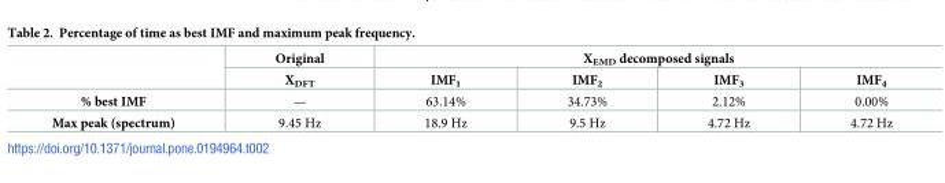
<table><thead><tr><td rowspan="2"></td><td rowspan="2">Original X<sub>DFT</sub></td><td colspan="4">X<sub>EMD</sub> decomposed signals</td></tr><tr><td>IMF<sub>1</sub></td><td>IMF<sub>2</sub></td><td>IMF<sub>3</sub></td><td>IMF<sub>4</sub></td></tr></thead><tbody><tr><td>% best IMF</td><td>—</td><td>63.14%</td><td>34.73%</td><td>2.12%</td><td>0.00%</td></tr><tr><td>Max peak (spectrum)</td><td>9.45 Hz</td><td>18.9 Hz</td><td>9.5 Hz</td><td>4.72 Hz</td><td>4.72 Hz</td></tr></tbody></table>